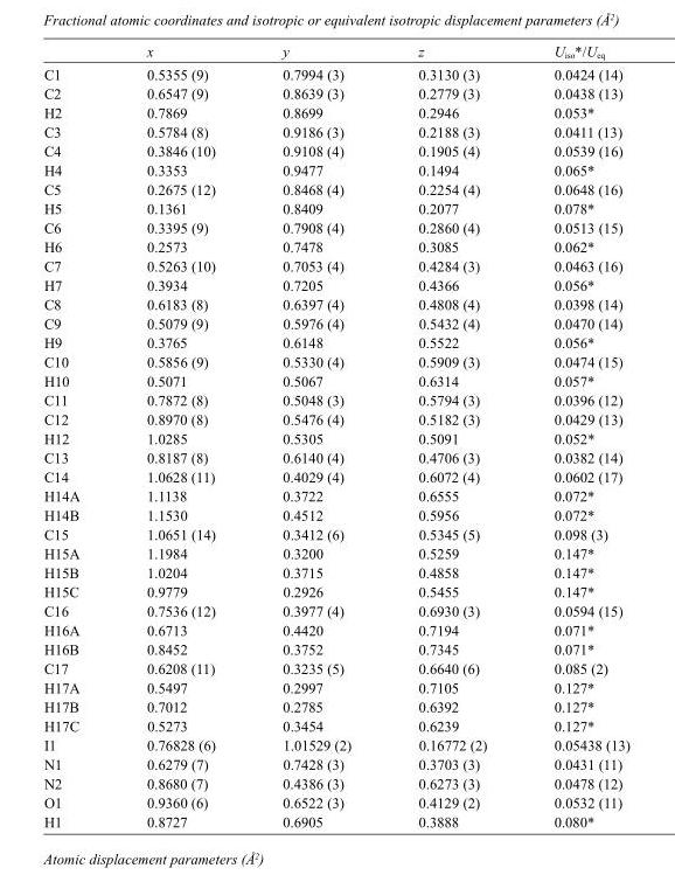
<table><thead><tr><td></td><td>x</td><td>y</td><td>z</td><td>U<sub>iso</sub>*/U<sub>eq</sub></td></tr></thead><tbody><tr><td>C1</td><td>0.5355 (9)</td><td>0.7994 (3)</td><td>0.3130 (3)</td><td>0.0424 (14)</td></tr><tr><td>C2</td><td>0.6547 (9)</td><td>0.8639 (3)</td><td>0.2779 (3)</td><td>0.0438 (13)</td></tr><tr><td>H2</td><td>0.7869</td><td>0.8699</td><td>0.2946</td><td>0.053*</td></tr><tr><td>C3</td><td>0.5784 (8)</td><td>0.9186 (3)</td><td>0.2188 (3)</td><td>0.0411 (13)</td></tr><tr><td>C4</td><td>0.3846 (10)</td><td>0.9108 (4)</td><td>0.1905 (4)</td><td>0.0539 (16)</td></tr><tr><td>H4</td><td>0.3353</td><td>0.9477</td><td>0.1494</td><td>0.065*</td></tr><tr><td>C5</td><td>0.2675 (12)</td><td>0.8468 (4)</td><td>0.2254 (4)</td><td>0.0648 (16)</td></tr><tr><td>H5</td><td>0.1361</td><td>0.8409</td><td>0.2077</td><td>0.078*</td></tr><tr><td>C6</td><td>0.3395 (9)</td><td>0.7908 (4)</td><td>0.2860 (4)</td><td>0.0513 (15)</td></tr><tr><td>H6</td><td>0.2573</td><td>0.7478</td><td>0.3085</td><td>0.062*</td></tr><tr><td>C7</td><td>0.5263 (10)</td><td>0.7053 (4)</td><td>0.4284 (3)</td><td>0.0463 (16)</td></tr><tr><td>H7</td><td>0.3934</td><td>0.7205</td><td>0.4366</td><td>0.056*</td></tr><tr><td>C8</td><td>0.6183 (8)</td><td>0.6397 (4)</td><td>0.4808 (4)</td><td>0.0398 (14)</td></tr><tr><td>C9</td><td>0.5079 (9)</td><td>0.5976 (4)</td><td>0.5432 (4)</td><td>0.0470 (14)</td></tr><tr><td>H9</td><td>0.3765</td><td>0.6148</td><td>0.5522</td><td>0.056*</td></tr><tr><td>C10</td><td>0.5856 (9)</td><td>0.5330 (4)</td><td>0.5909 (3)</td><td>0.0474 (15)</td></tr><tr><td>H10</td><td>0.5071</td><td>0.5067</td><td>0.6314</td><td>0.057*</td></tr><tr><td>C11</td><td>0.7872 (8)</td><td>0.5048 (3)</td><td>0.5794 (3)</td><td>0.0396 (12)</td></tr><tr><td>C12</td><td>0.8970 (8)</td><td>0.5476 (4)</td><td>0.5182 (3)</td><td>0.0429 (13)</td></tr><tr><td>H12</td><td>1.0285</td><td>0.5305</td><td>0.5091</td><td>0.052*</td></tr><tr><td>C13</td><td>0.8187 (8)</td><td>0.6140 (4)</td><td>0.4706 (3)</td><td>0.0382 (14)</td></tr><tr><td>C14</td><td>1.0628 (11)</td><td>0.4029 (4)</td><td>0.6072 (4)</td><td>0.0602 (17)</td></tr><tr><td>H14A</td><td>1.1138</td><td>0.3722</td><td>0.6555</td><td>0.072*</td></tr><tr><td>H14B</td><td>1.1530</td><td>0.4512</td><td>0.5956</td><td>0.072*</td></tr><tr><td>C15</td><td>1.0651 (14)</td><td>0.3412 (6)</td><td>0.5345 (5)</td><td>0.098 (3)</td></tr><tr><td>H15A</td><td>1.1984</td><td>0.3200</td><td>0.5259</td><td>0.147*</td></tr><tr><td>H15B</td><td>1.0204</td><td>0.3715</td><td>0.4858</td><td>0.147*</td></tr><tr><td>H15C</td><td>0.9779</td><td>0.2926</td><td>0.5455</td><td>0.147*</td></tr><tr><td>C16</td><td>0.7536 (12)</td><td>0.3977 (4)</td><td>0.6930 (3)</td><td>0.0594 (15)</td></tr><tr><td>H16A</td><td>0.6713</td><td>0.4420</td><td>0.7194</td><td>0.071*</td></tr><tr><td>H16B</td><td>0.8452</td><td>0.3752</td><td>0.7345</td><td>0.071*</td></tr><tr><td>C17</td><td>0.6208 (11)</td><td>0.3235 (5)</td><td>0.6640 (6)</td><td>0.085 (2)</td></tr><tr><td>H17A</td><td>0.5497</td><td>0.2997</td><td>0.7105</td><td>0.127*</td></tr><tr><td>H17B</td><td>0.7012</td><td>0.2785</td><td>0.6392</td><td>0.127*</td></tr><tr><td>H17C</td><td>0.5273</td><td>0.3454</td><td>0.6239</td><td>0.127*</td></tr><tr><td>I1</td><td>0.76828 (6)</td><td>1.01529 (2)</td><td>0.16772 (2)</td><td>0.05438 (13)</td></tr><tr><td>N1</td><td>0.6279 (7)</td><td>0.7428 (3)</td><td>0.3703 (3)</td><td>0.0431 (11)</td></tr><tr><td>N2</td><td>0.8680 (7)</td><td>0.4386 (3)</td><td>0.6273 (3)</td><td>0.0478 (12)</td></tr><tr><td>O1</td><td>0.9360 (6)</td><td>0.6522 (3)</td><td>0.4129 (2)</td><td>0.0532 (11)</td></tr><tr><td>H1</td><td>0.8727</td><td>0.6905</td><td>0.3888</td><td>0.080*</td></tr></tbody></table>